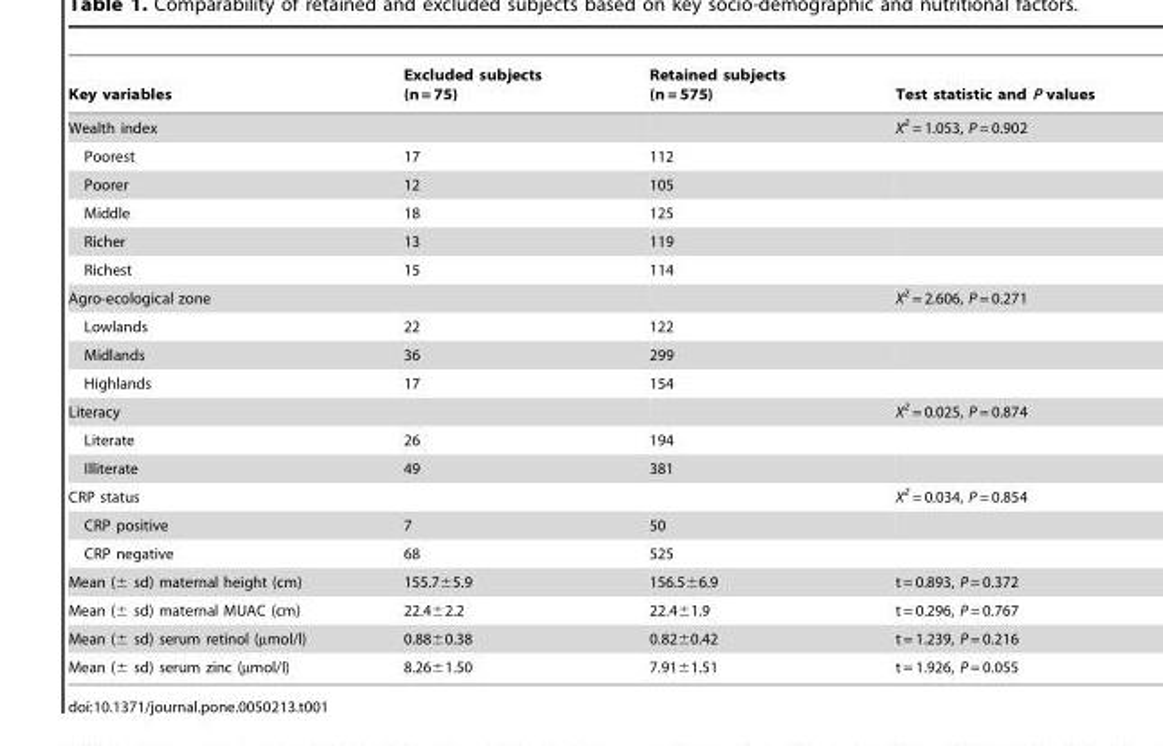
<table><thead><tr><td>Key variables</td><td>Excluded subjects (n = 75)</td><td>Retained subjects (n = 575)</td><td>Test statistic and P values</td></tr></thead><tbody><tr><td>Wealth index</td><td></td><td></td><td>X<sup>2</sup> = 1.053, P = 0.902</td></tr><tr><td>Poorest</td><td>17</td><td>112</td><td></td></tr><tr><td>Poorer</td><td>12</td><td>105</td><td></td></tr><tr><td>Middle</td><td>18</td><td>125</td><td></td></tr><tr><td>Richer</td><td>13</td><td>119</td><td></td></tr><tr><td>Richest</td><td>15</td><td>114</td><td></td></tr><tr><td>Agro-ecological zone</td><td></td><td></td><td>X<sup>2</sup> = 2.606, P = 0.271</td></tr><tr><td>Lowlands</td><td>22</td><td>122</td><td></td></tr><tr><td>Midlands</td><td>36</td><td>299</td><td></td></tr><tr><td>Highlands</td><td>17</td><td>154</td><td></td></tr><tr><td>Literacy</td><td></td><td></td><td>X<sup>2</sup> = 0.025, P = 0.874</td></tr><tr><td>Literate</td><td>26</td><td>194</td><td></td></tr><tr><td>Illiterate</td><td>49</td><td>381</td><td></td></tr><tr><td>CRP status</td><td></td><td></td><td>X<sup>2</sup> = 0.034, P = 0.854</td></tr><tr><td>CRP positive</td><td>7</td><td>50</td><td></td></tr><tr><td>CRP negative</td><td>68</td><td>525</td><td></td></tr><tr><td>Mean (± sd) maternal height (cm)</td><td>155.7±5.9</td><td>156.5±6.9</td><td>t = 0.893, P = 0.372</td></tr><tr><td>Mean (± sd) maternal MUAC (cm)</td><td>22.4±2.2</td><td>22.4±1.9</td><td>t = 0.296, P = 0.767</td></tr><tr><td>Mean (± sd) serum retinol (µmol/l)</td><td>0.88±0.38</td><td>0.82±0.42</td><td>t = 1.239, P = 0.216</td></tr><tr><td>Mean (± sd) serum zinc (µmol/l)</td><td>8.26±1.50</td><td>7.91±1.51</td><td>t = 1.926, P = 0.055</td></tr></tbody></table>